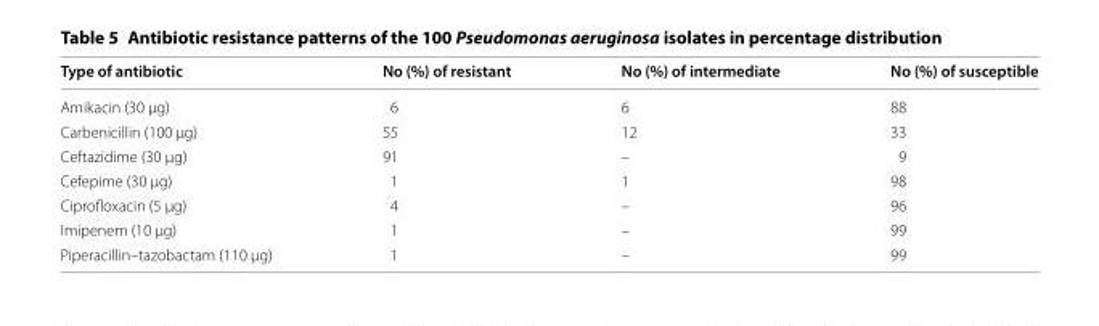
<table><thead><tr><td>Type of antibiotic</td><td>No (%) of resistant</td><td>No (%) of intermediate</td><td>No (%) of susceptible</td></tr></thead><tbody><tr><td>Amikacin (30 µg)</td><td>6</td><td>6</td><td>88</td></tr><tr><td>Carbenicillin (100 µg)</td><td>55</td><td>12</td><td>33</td></tr><tr><td>Ceftazidime (30 µg)</td><td>91</td><td>–</td><td>9</td></tr><tr><td>Cefepime (30 µg)</td><td>1</td><td>1</td><td>98</td></tr><tr><td>Ciprofloxacin (5 µg)</td><td>4</td><td>–</td><td>96</td></tr><tr><td>Imipenem (10 µg)</td><td>1</td><td>–</td><td>99</td></tr><tr><td>Piperacillin–tazobactam (110 µg)</td><td>1</td><td>–</td><td>99</td></tr></tbody></table>